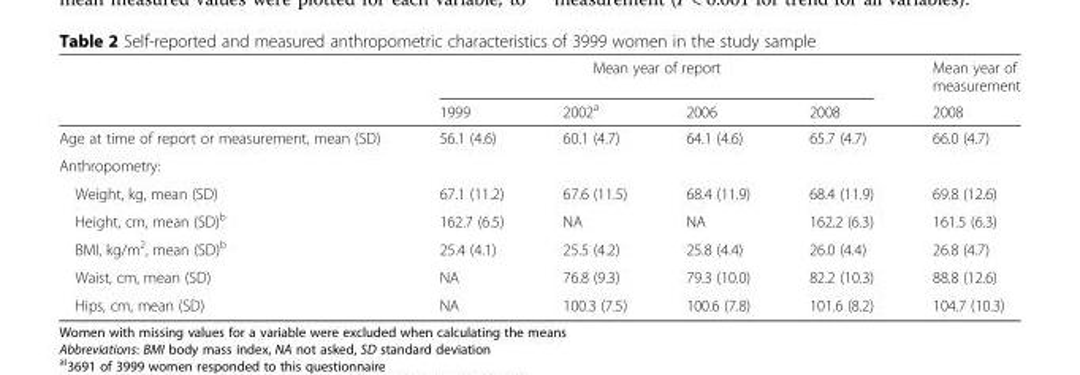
<table><thead><tr><td rowspan="2"></td><td colspan="4">Mean year of report</td><td rowspan="2">Mean year of measurement 2008</td></tr><tr><td>1999</td><td>2002<sup>a</sup></td><td>2006</td><td>2008</td></tr></thead><tbody><tr><td>Age at time of report or measurement, mean (SD)</td><td>56.1 (4.6)</td><td>60.1 (4.7)</td><td>64.1 (4.6)</td><td>65.7 (4.7)</td><td>66.0 (4.7)</td></tr><tr><td colspan="6">Anthropometry:</td></tr><tr><td>Weight, kg, mean (SD)</td><td>67.1 (11.2)</td><td>67.6 (11.5)</td><td>68.4 (11.9)</td><td>68.4 (11.9)</td><td>69.8 (12.6)</td></tr><tr><td>Height, cm, mean (SD)<sup>b</sup></td><td>162.7 (6.5)</td><td>NA</td><td>NA</td><td>162.2 (6.3)</td><td>161.5 (6.3)</td></tr><tr><td>BMI, kg/m<sup>2</sup>, mean (SD)<sup>b</sup></td><td>25.4 (4.1)</td><td>25.5 (4.2)</td><td>25.8 (4.4)</td><td>26.0 (4.4)</td><td>26.8 (4.7)</td></tr><tr><td>Waist, cm, mean (SD)</td><td>NA</td><td>76.8 (9.3)</td><td>79.3 (10.0)</td><td>82.2 (10.3)</td><td>88.8 (12.6)</td></tr><tr><td>Hips, cm, mean (SD)</td><td>NA</td><td>100.3 (7.5)</td><td>100.6 (7.8)</td><td>101.6 (8.2)</td><td>104.7 (10.3)</td></tr></tbody></table>